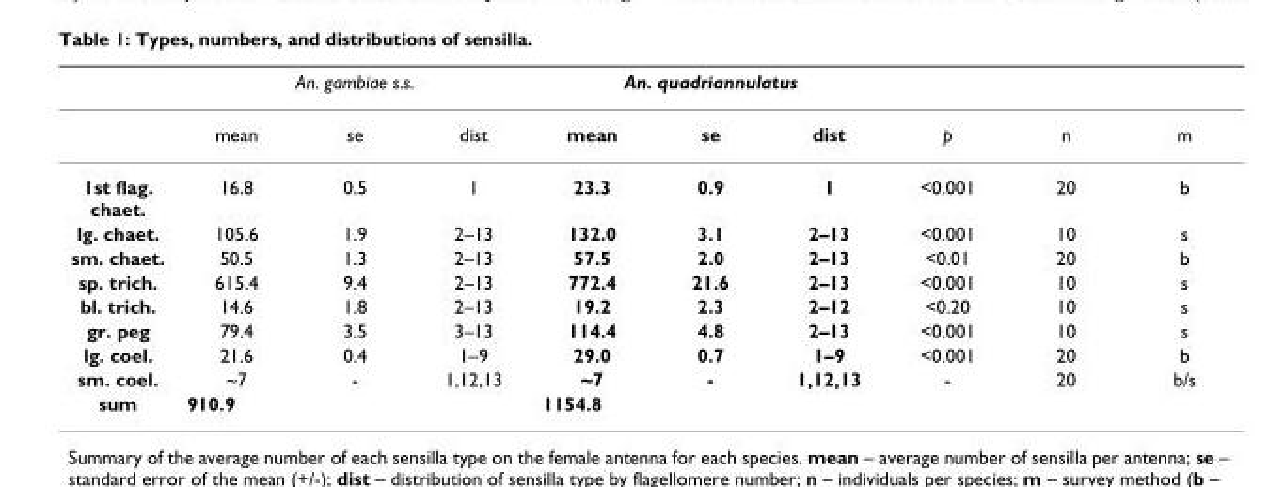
<table><thead><tr><td rowspan="2"></td><td colspan="3">An. gambiae s.s.</td><td colspan="3">An. quadriannulatus</td><td rowspan="2">p</td><td rowspan="2">n</td><td rowspan="2">m</td></tr><tr><td>mean</td><td>se</td><td>dist</td><td>mean</td><td>se</td><td>dist</td></tr></thead><tbody><tr><td>1st flag. chaet.</td><td>16.8</td><td>0.5</td><td>1</td><td>23.3</td><td>0.9</td><td>1</td><td>&lt;0.001</td><td>20</td><td>b</td></tr><tr><td>lg. chaet.</td><td>105.6</td><td>1.9</td><td>2–13</td><td>132.0</td><td>3.1</td><td>2–13</td><td>&lt;0.001</td><td>10</td><td>s</td></tr><tr><td>sm. chaet.</td><td>50.5</td><td>1.3</td><td>2–13</td><td>57.5</td><td>2.0</td><td>2–13</td><td>&lt;0.01</td><td>20</td><td>b</td></tr><tr><td>sp. trich.</td><td>615.4</td><td>9.4</td><td>2–13</td><td>772.4</td><td>21.6</td><td>2–13</td><td>&lt;0.001</td><td>10</td><td>s</td></tr><tr><td>bl. trich.</td><td>14.6</td><td>1.8</td><td>2–13</td><td>19.2</td><td>2.3</td><td>2–12</td><td>&lt;0.20</td><td>10</td><td>s</td></tr><tr><td>gr. peg</td><td>79.4</td><td>3.5</td><td>3–13</td><td>114.4</td><td>4.8</td><td>2–13</td><td>&lt;0.001</td><td>10</td><td>s</td></tr><tr><td>lg. coel.</td><td>21.6</td><td>0.4</td><td>1–9</td><td>29.0</td><td>0.7</td><td>1–9</td><td>&lt;0.001</td><td>20</td><td>b</td></tr><tr><td>sm. coel.</td><td>~7</td><td>-</td><td>1,12,13</td><td>~7</td><td>-</td><td>1,12,13</td><td>-</td><td>20</td><td>b/s</td></tr><tr><td>sum</td><td colspan="3">910.9</td><td colspan="3">1154.8</td><td></td><td></td><td></td></tr></tbody></table>